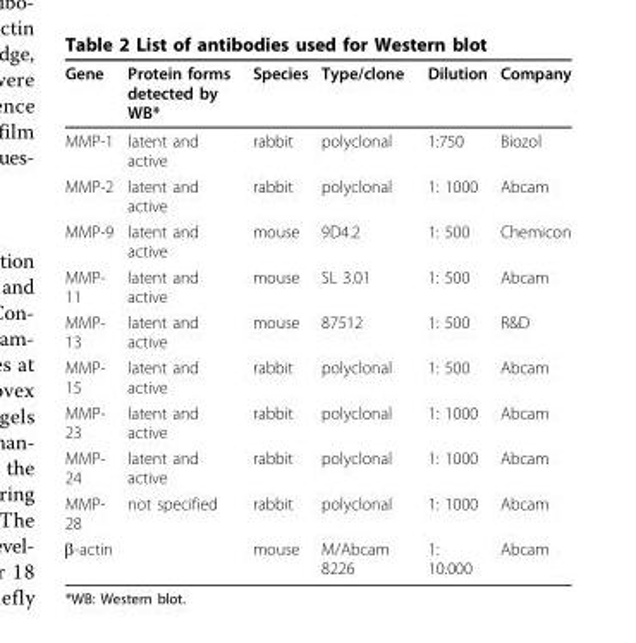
<table><thead><tr><td>Gene</td><td>Protein forms detected by WB*</td><td>Species</td><td>Type/clone</td><td>Dilution</td><td>Company</td></tr></thead><tbody><tr><td>MMP-1</td><td>latent and active</td><td>rabbit</td><td>polyclonal</td><td>1:750</td><td>Biozol</td></tr><tr><td>MMP-2</td><td>latent and active</td><td>rabbit</td><td>polyclonal</td><td>1: 1000</td><td>Abcam</td></tr><tr><td>MMP-9</td><td>latent and active</td><td>mouse</td><td>9D4.2</td><td>1: 500</td><td>Chemicon</td></tr><tr><td>MMP- 11</td><td>latent and active</td><td>mouse</td><td>SL 3.01</td><td>1: 500</td><td>Abcam</td></tr><tr><td>MMP- 13</td><td>latent and active</td><td>mouse</td><td>87512</td><td>1: 500</td><td>R&amp;D</td></tr><tr><td>MMP- 15</td><td>latent and active</td><td>rabbit</td><td>polyclonal</td><td>1: 500</td><td>Abcam</td></tr><tr><td>MMP- 23</td><td>latent and active</td><td>rabbit</td><td>polyclonal</td><td>1: 1000</td><td>Abcam</td></tr><tr><td>MMP- 24</td><td>latent and active</td><td>rabbit</td><td>polyclonal</td><td>1: 1000</td><td>Abcam</td></tr><tr><td>MMP- 28</td><td>not specified</td><td>rabbit</td><td>polyclonal</td><td>1: 1000</td><td>Abcam</td></tr><tr><td>β-actin</td><td></td><td>mouse</td><td>M/Abcam 8226</td><td>1: 10.000</td><td>Abcam</td></tr></tbody></table>